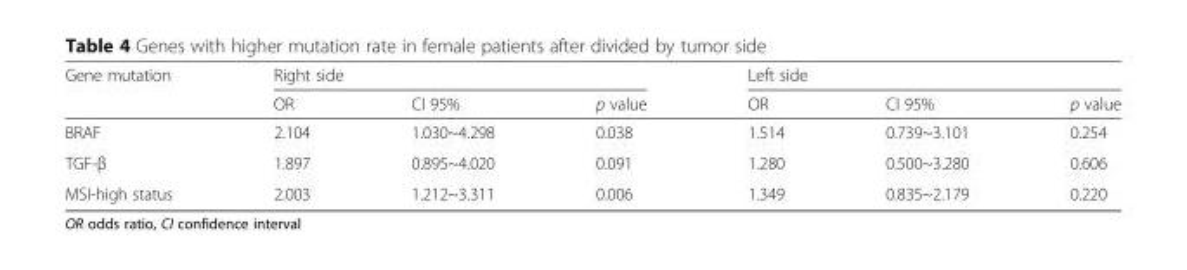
<table><thead><tr><td rowspan="2">Gene mutation</td><td colspan="3">Right side</td><td colspan="3">Left side</td></tr><tr><td>OR</td><td>CI 95%</td><td>p value</td><td>OR</td><td>CI 95%</td><td>p value</td></tr></thead><tbody><tr><td>BRAF</td><td>2.104</td><td>1.030~4.298</td><td>0.038</td><td>1.514</td><td>0.739~3.101</td><td>0.254</td></tr><tr><td>TGF-β</td><td>1.897</td><td>0.895~4.020</td><td>0.091</td><td>1.280</td><td>0.500~3.280</td><td>0.606</td></tr><tr><td>MSI-high status</td><td>2.003</td><td>1.212~3.311</td><td>0.006</td><td>1.349</td><td>0.835~2.179</td><td>0.220</td></tr></tbody></table>